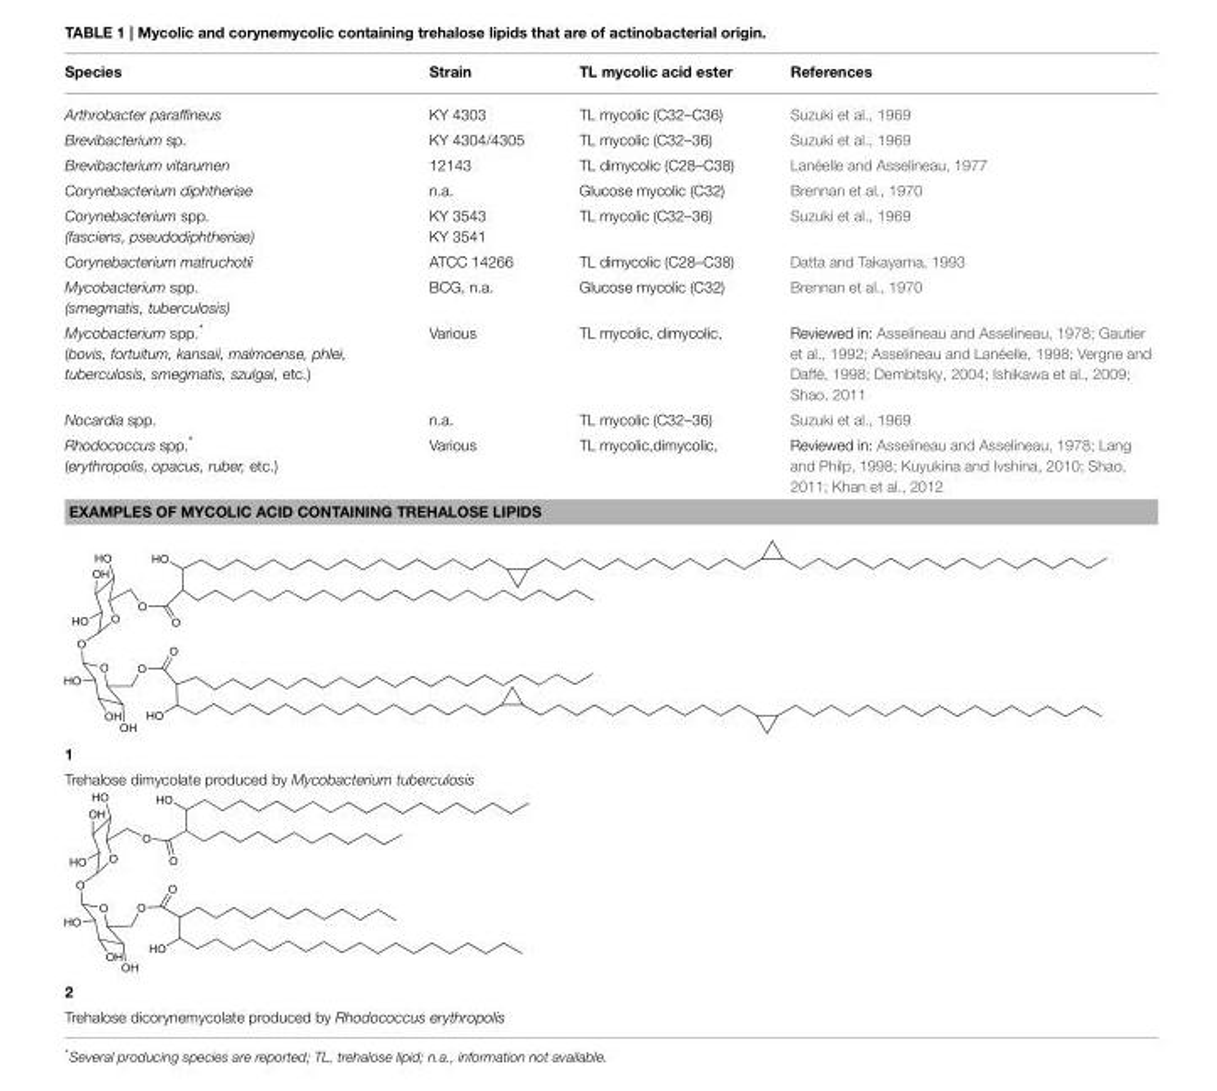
<table><thead><tr><td>Species</td><td>Strain</td><td>TL mycolic acid ester</td><td>References</td></tr></thead><tbody><tr><td>Arthrobacter paraffineus</td><td>KY 4303</td><td>TL mycolic (C32–C36)</td><td>Suzuki et al., 1969</td></tr><tr><td>Brevibacterium sp.</td><td>KY 4304/4305</td><td>TL mycolic (C32–36)</td><td>Suzuki et al., 1969</td></tr><tr><td>Brevibacterium vitarumen</td><td>12143</td><td>TL dimycolic (C28–C38)</td><td>Lanéelle and Asselineau, 1977</td></tr><tr><td>Corynebacterium diphtheriae</td><td>n.a.</td><td>Glucose mycolic (C32)</td><td>Brennan et al., 1970</td></tr><tr><td>Corynebacterium spp. (fasciens, pseudodiphtheriae)</td><td>KY 3543 KY 3541</td><td>TL mycolic (C32–36)</td><td>Suzuki et al., 1969</td></tr><tr><td>Corynebacterium matruchotii</td><td>ATCC 14266</td><td>TL dimycolic (C28–C38)</td><td>Datta and Takayama, 1993</td></tr><tr><td>Mycobacterium spp. (smegmatis, tuberculosis)</td><td>BCG, n.a.</td><td>Glucose mycolic (C32)</td><td>Brennan et al., 1970</td></tr><tr><td>Mycobacterium spp.* (bovis, fortuitum, kansaii, malmoense, phlei, tuberculosis, smegmatis, szulgai, etc.)</td><td>Various</td><td>TL mycolic, dimycolic,</td><td>Reviewed in: Asselineau and Asselineau, 1978; Gautier et al., 1992; Asselineau and Lanéelle, 1998; Vergne and Daffé, 1998; Dembitsky, 2004; Ishikawa et al., 2009; Shao, 2011</td></tr><tr><td>Nocardia spp.</td><td>n.a.</td><td>TL mycolic (C32–36)</td><td>Suzuki et al., 1969</td></tr><tr><td>Rhodococcus spp.* (erythropolis, opacus, ruber, etc.)</td><td>Various</td><td>TL mycolic,dimycolic,</td><td>Reviewed in: Asselineau and Asselineau, 1978; Lang and Philp, 1998; Kuyukina and Ivshina, 2010; Shao, 2011; Khan et al., 2012</td></tr><tr><td colspan="4">EXAMPLES OF MYCOLIC ACID CONTAINING TREHALOSE LIPIDS</td></tr><tr><td colspan="4">1</td></tr><tr><td colspan="4">Trehalose dimycolate produced by Mycobacterium tuberculosis</td></tr><tr><td colspan="4">2</td></tr><tr><td colspan="4">Trehalose dicorynemycolate produced by Rhodococcus erythropolis</td></tr></tbody></table>